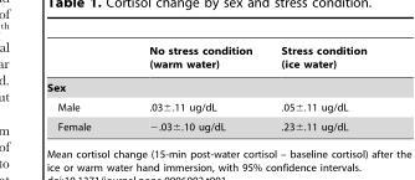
<table><thead><tr><td></td><td>No stress condition (warm water)</td><td>Stress condition (ice water)</td></tr></thead><tbody><tr><td colspan="3">Sex</td></tr><tr><td>Male</td><td>.03±.11 ug/dL</td><td>.05±.11 ug/dL</td></tr><tr><td>Female</td><td>−.03±.10 ug/dL</td><td>.23±.11 ug/dL</td></tr></tbody></table>